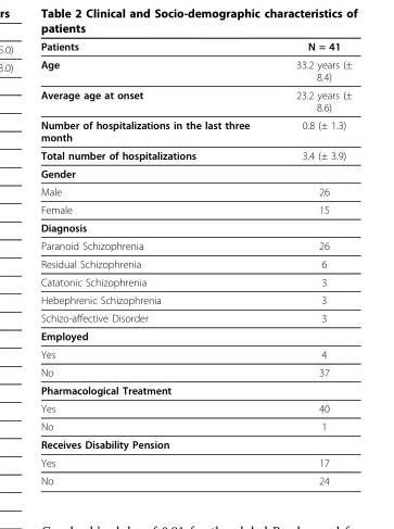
<table><thead><tr><td>Patients</td><td>N = 41</td></tr></thead><tbody><tr><td>Age</td><td>33.2 years (± 8.4)</td></tr><tr><td>Average age at onset</td><td>23.2 years (± 8.6)</td></tr><tr><td>Number of hospitalizations in the last three month</td><td>0.8 (± 1.3)</td></tr><tr><td>Total number of hospitalizations</td><td>3.4 (± 3.9)</td></tr><tr><td colspan="2">Gender</td></tr><tr><td>Male</td><td>26</td></tr><tr><td>Female</td><td>15</td></tr><tr><td colspan="2">Diagnosis</td></tr><tr><td>Paranoid Schizophrenia</td><td>26</td></tr><tr><td>Residual Schizophrenia</td><td>6</td></tr><tr><td>Catatonic Schizophrenia</td><td>3</td></tr><tr><td>Hebephrenic Schizophrenia</td><td>3</td></tr><tr><td>Schizo-affective Disorder</td><td>3</td></tr><tr><td colspan="2">Employed</td></tr><tr><td>Yes</td><td>4</td></tr><tr><td>No</td><td>37</td></tr><tr><td colspan="2">Pharmacological Treatment</td></tr><tr><td>Yes</td><td>40</td></tr><tr><td>No</td><td>1</td></tr><tr><td colspan="2">Receives Disability Pension</td></tr><tr><td>Yes</td><td>17</td></tr><tr><td>No</td><td>24</td></tr></tbody></table>